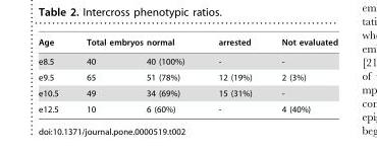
<table><thead><tr><td>Age</td><td>Total embryos</td><td>normal</td><td>arrested</td><td>Not evaluated</td></tr></thead><tbody><tr><td>e8.5</td><td>40</td><td>40 (100%)</td><td>-</td><td>-</td></tr><tr><td>e9.5</td><td>65</td><td>51 (78%)</td><td>12 (19%)</td><td>2 (3%)</td></tr><tr><td>e10.5</td><td>49</td><td>34 (69%)</td><td>15 (31%)</td><td>-</td></tr><tr><td>e12.5</td><td>10</td><td>6 (60%)</td><td>-</td><td>4 (40%)</td></tr></tbody></table>